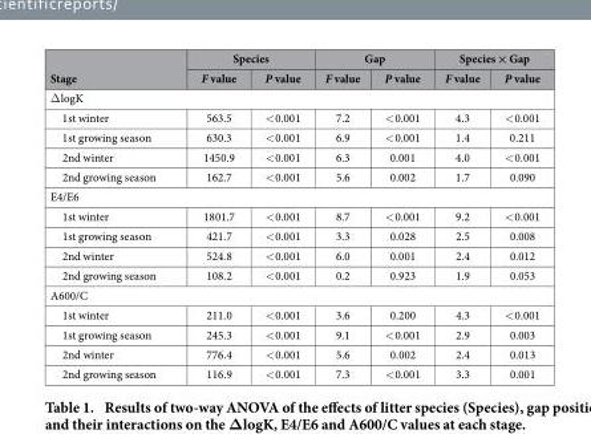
<table><thead><tr><td rowspan="2">Stage</td><td colspan="2">Species</td><td colspan="2">Gap</td><td colspan="2">Species × Gap</td></tr><tr><td>F value</td><td>P value</td><td>F value</td><td>P value</td><td>F value</td><td>P value</td></tr></thead><tbody><tr><td colspan="7">Δ logK</td></tr><tr><td>1st winter</td><td>563.5</td><td>&lt; 0.001</td><td>7.2</td><td>&lt; 0.001</td><td>4.3</td><td>&lt; 0.001</td></tr><tr><td>1st growing season</td><td>630.3</td><td>&lt; 0.001</td><td>6.9</td><td>&lt; 0.001</td><td>1.4</td><td>0.211</td></tr><tr><td>2nd winter</td><td>1450.9</td><td>&lt; 0.001</td><td>6.3</td><td>0.001</td><td>4.0</td><td>&lt; 0.001</td></tr><tr><td>2nd growing season</td><td>162.7</td><td>&lt; 0.001</td><td>5.6</td><td>0.002</td><td>1.7</td><td>0.090</td></tr><tr><td colspan="7">E4/E6</td></tr><tr><td>1st winter</td><td>1801.7</td><td>&lt; 0.001</td><td>8.7</td><td>&lt; 0.001</td><td>9.2</td><td>&lt; 0.001</td></tr><tr><td>1st growing season</td><td>421.7</td><td>&lt; 0.001</td><td>3.3</td><td>0.028</td><td>2.5</td><td>0.008</td></tr><tr><td>2nd winter</td><td>524.8</td><td>&lt; 0.001</td><td>6.0</td><td>0.001</td><td>2.4</td><td>0.012</td></tr><tr><td>2nd growing season</td><td>108.2</td><td>&lt; 0.001</td><td>0.2</td><td>0.923</td><td>1.9</td><td>0.053</td></tr><tr><td colspan="7">A600/C</td></tr><tr><td>1st winter</td><td>211.0</td><td>&lt; 0.001</td><td>3.6</td><td>0.200</td><td>4.3</td><td>&lt; 0.001</td></tr><tr><td>1st growing season</td><td>245.3</td><td>&lt; 0.001</td><td>9.1</td><td>&lt; 0.001</td><td>2.9</td><td>0.003</td></tr><tr><td>2nd winter</td><td>776.4</td><td>&lt; 0.001</td><td>5.6</td><td>0.002</td><td>2.4</td><td>0.013</td></tr><tr><td>2nd growing season</td><td>116.9</td><td>&lt; 0.001</td><td>7.3</td><td>&lt; 0.001</td><td>3.3</td><td>0.001</td></tr></tbody></table>